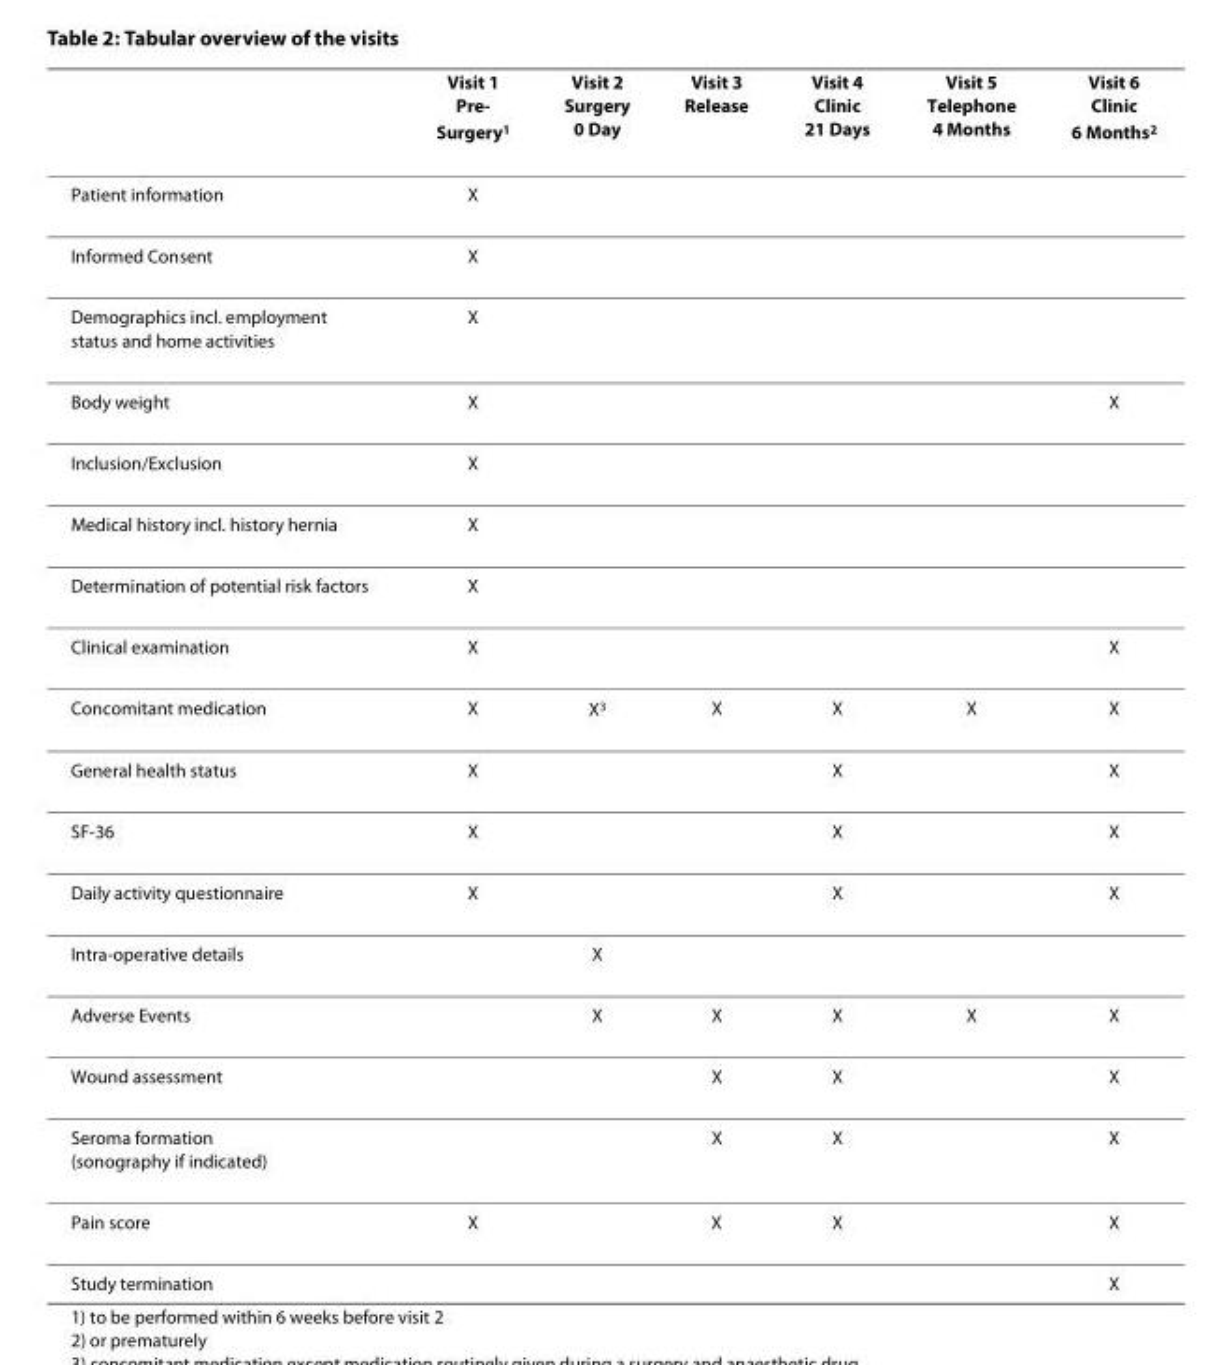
<table><thead><tr><td></td><td>Visit 1 Pre- Surgery<sup>1</sup></td><td>Visit 2 Surgery 0 Day</td><td>Visit 3 Release</td><td>Visit 4 Clinic 21 Days</td><td>Visit 5 Telephone 4 Months</td><td>Visit 6 Clinic 6 Months<sup>2</sup></td></tr></thead><tbody><tr><td>Patient information</td><td>X</td><td></td><td></td><td></td><td></td><td></td></tr><tr><td>Informed Consent</td><td>X</td><td></td><td></td><td></td><td></td><td></td></tr><tr><td>Demographics incl. employment status and home activities</td><td>X</td><td></td><td></td><td></td><td></td><td></td></tr><tr><td>Body weight</td><td>X</td><td></td><td></td><td></td><td></td><td>X</td></tr><tr><td>Inclusion/Exclusion</td><td>X</td><td></td><td></td><td></td><td></td><td></td></tr><tr><td>Medical history incl. history hernia</td><td>X</td><td></td><td></td><td></td><td></td><td></td></tr><tr><td>Determination of potential risk factors</td><td>X</td><td></td><td></td><td></td><td></td><td></td></tr><tr><td>Clinical examination</td><td>X</td><td></td><td></td><td></td><td></td><td>X</td></tr><tr><td>Concomitant medication</td><td>X</td><td>X<sup>3</sup></td><td>X</td><td>X</td><td>X</td><td>X</td></tr><tr><td>General health status</td><td>X</td><td></td><td></td><td>X</td><td></td><td>X</td></tr><tr><td>SF-36</td><td>X</td><td></td><td></td><td>X</td><td></td><td>X</td></tr><tr><td>Daily activity questionnaire</td><td>X</td><td></td><td></td><td>X</td><td></td><td>X</td></tr><tr><td>Intra-operative details</td><td></td><td>X</td><td></td><td></td><td></td><td></td></tr><tr><td>Adverse Events</td><td></td><td>X</td><td>X</td><td>X</td><td>X</td><td>X</td></tr><tr><td>Wound assessment</td><td></td><td></td><td>X</td><td>X</td><td></td><td>X</td></tr><tr><td>Seroma formation (sonography if indicated)</td><td></td><td></td><td>X</td><td>X</td><td></td><td>X</td></tr><tr><td>Pain score</td><td>X</td><td></td><td>X</td><td>X</td><td></td><td>X</td></tr><tr><td>Study termination</td><td></td><td></td><td></td><td></td><td></td><td>X</td></tr></tbody></table>